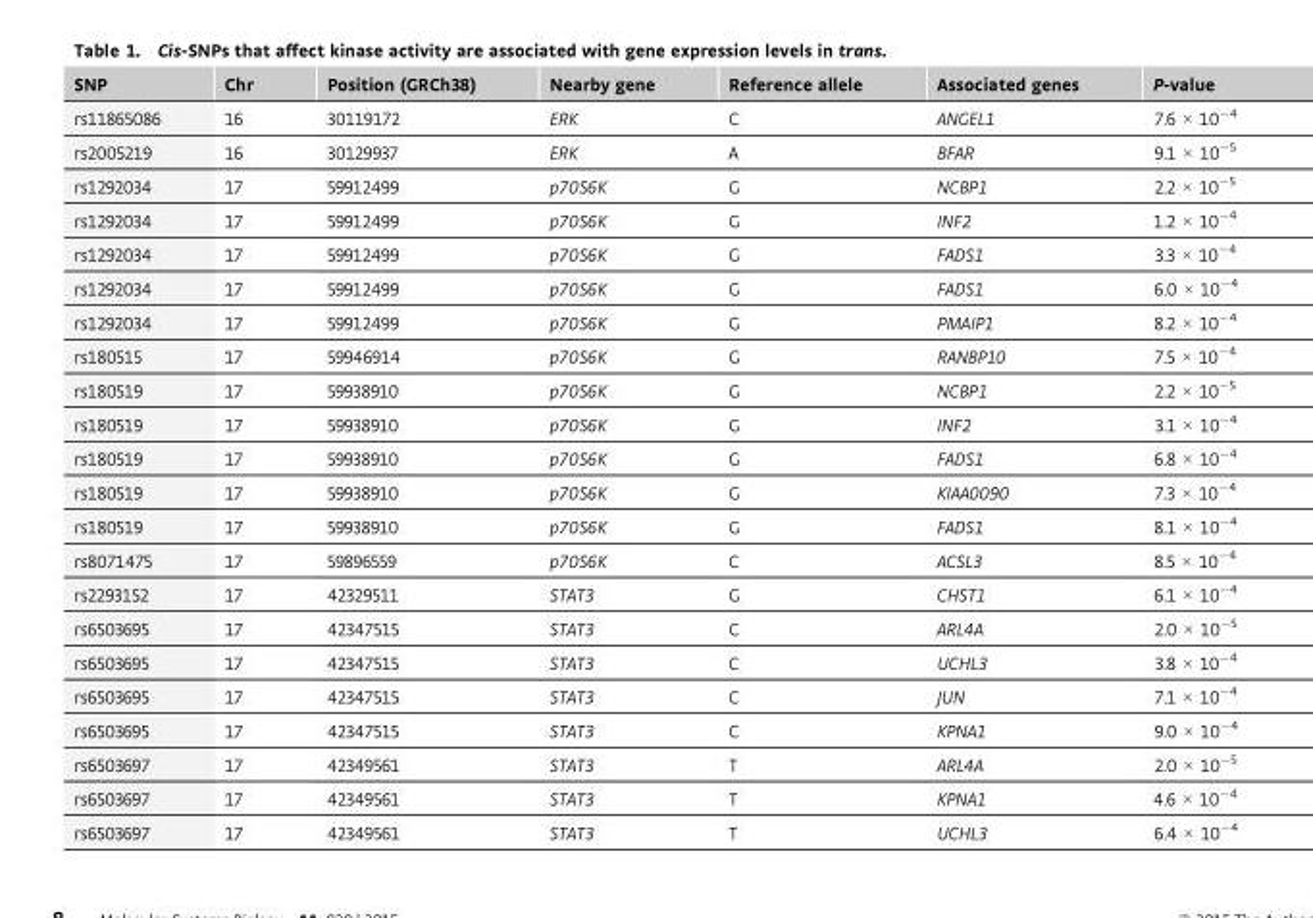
<table><thead><tr><td>SNP</td><td>Chr</td><td>Position (GRCh38)</td><td>Nearby gene</td><td>Reference allele</td><td>Associated genes</td><td>P-value</td></tr></thead><tbody><tr><td>rs11865086</td><td>16</td><td>30119172</td><td>ERK</td><td>C</td><td>ANGEL1</td><td>7.6 × 10<sup>−4</sup></td></tr><tr><td>rs2005219</td><td>16</td><td>30129937</td><td>ERK</td><td>A</td><td>BFAR</td><td>9.1 × 10<sup>−5</sup></td></tr><tr><td>rs1292034</td><td>17</td><td>59912499</td><td>p70S6K</td><td>G</td><td>NCBP1</td><td>2.2 × 10<sup>−5</sup></td></tr><tr><td>rs1292034</td><td>17</td><td>59912499</td><td>p70S6K</td><td>G</td><td>INF2</td><td>1.2 × 10<sup>−4</sup></td></tr><tr><td>rs1292034</td><td>17</td><td>59912499</td><td>p70S6K</td><td>G</td><td>FADS1</td><td>3.3 × 10<sup>−4</sup></td></tr><tr><td>rs1292034</td><td>17</td><td>59912499</td><td>p70S6K</td><td>G</td><td>FADS1</td><td>6.0 × 10<sup>−4</sup></td></tr><tr><td>rs1292034</td><td>17</td><td>59912499</td><td>p70S6K</td><td>G</td><td>PMAIP1</td><td>8.2 × 10<sup>−4</sup></td></tr><tr><td>rs180515</td><td>17</td><td>59946914</td><td>p70S6K</td><td>G</td><td>RANBP10</td><td>7.5 × 10<sup>−4</sup></td></tr><tr><td>rs180519</td><td>17</td><td>59938910</td><td>p70S6K</td><td>G</td><td>NCBP1</td><td>2.2 × 10<sup>−5</sup></td></tr><tr><td>rs180519</td><td>17</td><td>59938910</td><td>p70S6K</td><td>G</td><td>INF2</td><td>3.1 × 10<sup>−4</sup></td></tr><tr><td>rs180519</td><td>17</td><td>59938910</td><td>p70S6K</td><td>G</td><td>FADS1</td><td>6.8 × 10<sup>−4</sup></td></tr><tr><td>rs180519</td><td>17</td><td>59938910</td><td>p70S6K</td><td>G</td><td>KIAA0090</td><td>7.3 × 10<sup>−4</sup></td></tr><tr><td>rs180519</td><td>17</td><td>59938910</td><td>p70S6K</td><td>G</td><td>FADS1</td><td>8.1 × 10<sup>−4</sup></td></tr><tr><td>rs8071475</td><td>17</td><td>59896559</td><td>p70S6K</td><td>C</td><td>ACSL3</td><td>8.5 × 10<sup>−4</sup></td></tr><tr><td>rs2293152</td><td>17</td><td>42329511</td><td>STAT3</td><td>G</td><td>CHST1</td><td>6.1 × 10<sup>−4</sup></td></tr><tr><td>rs6503695</td><td>17</td><td>42347515</td><td>STAT3</td><td>C</td><td>ARL4A</td><td>2.0 × 10<sup>−5</sup></td></tr><tr><td>rs6503695</td><td>17</td><td>42347515</td><td>STAT3</td><td>C</td><td>UCHL3</td><td>3.8 × 10<sup>−4</sup></td></tr><tr><td>rs6503695</td><td>17</td><td>42347515</td><td>STAT3</td><td>C</td><td>JUN</td><td>7.1 × 10<sup>−4</sup></td></tr><tr><td>rs6503695</td><td>17</td><td>42347515</td><td>STAT3</td><td>C</td><td>KPNA1</td><td>9.0 × 10<sup>−4</sup></td></tr><tr><td>rs6503697</td><td>17</td><td>42349561</td><td>STAT3</td><td>T</td><td>ARL4A</td><td>2.0 × 10<sup>−5</sup></td></tr><tr><td>rs6503697</td><td>17</td><td>42349561</td><td>STAT3</td><td>T</td><td>KPNA1</td><td>4.6 × 10<sup>−4</sup></td></tr><tr><td>rs6503697</td><td>17</td><td>42349561</td><td>STAT3</td><td>T</td><td>UCHL3</td><td>6.4 × 10<sup>−4</sup></td></tr></tbody></table>